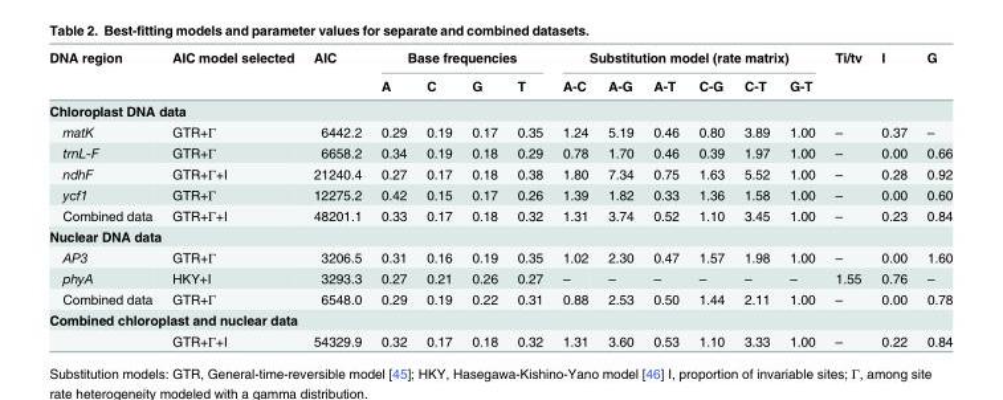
<table><thead><tr><td rowspan="2">DNA region</td><td rowspan="2">AIC model selected</td><td rowspan="2">AIC</td><td colspan="4">Base frequencies</td><td colspan="6">Substitution model (rate matrix)</td><td rowspan="2">Ti/tv</td><td rowspan="2">I</td><td rowspan="2">G</td></tr><tr><td>A</td><td>C</td><td>G</td><td>T</td><td>A-C</td><td>A-G</td><td>A-T</td><td>C-G</td><td>C-T</td><td>G-T</td></tr></thead><tbody><tr><td colspan="16">Chloroplast DNA data</td></tr><tr><td>matK</td><td>GTR+Γ</td><td>6442.2</td><td>0.29</td><td>0.19</td><td>0.17</td><td>0.35</td><td>1.24</td><td>5.19</td><td>0.46</td><td>0.80</td><td>3.89</td><td>1.00</td><td>–</td><td>0.37</td><td>–</td></tr><tr><td>trnL-F</td><td>GTR+Γ</td><td>6658.2</td><td>0.34</td><td>0.19</td><td>0.18</td><td>0.29</td><td>0.78</td><td>1.70</td><td>0.46</td><td>0.39</td><td>1.97</td><td>1.00</td><td>–</td><td>0.00</td><td>0.66</td></tr><tr><td>ndhF</td><td>GTR+Γ+I</td><td>21240.4</td><td>0.27</td><td>0.17</td><td>0.18</td><td>0.38</td><td>1.80</td><td>7.34</td><td>0.75</td><td>1.63</td><td>5.52</td><td>1.00</td><td>–</td><td>0.28</td><td>0.92</td></tr><tr><td>ycf1</td><td>GTR+Γ</td><td>12275.2</td><td>0.42</td><td>0.15</td><td>0.17</td><td>0.26</td><td>1.39</td><td>1.82</td><td>0.33</td><td>1.36</td><td>1.58</td><td>1.00</td><td>–</td><td>0.00</td><td>0.60</td></tr><tr><td>Combined data</td><td>GTR+Γ+I</td><td>48201.1</td><td>0.33</td><td>0.17</td><td>0.18</td><td>0.32</td><td>1.31</td><td>3.74</td><td>0.52</td><td>1.10</td><td>3.45</td><td>1.00</td><td>–</td><td>0.23</td><td>0.84</td></tr><tr><td colspan="16">Nuclear DNA data</td></tr><tr><td>AP3</td><td>GTR+Γ</td><td>3206.5</td><td>0.31</td><td>0.16</td><td>0.19</td><td>0.35</td><td>1.02</td><td>2.30</td><td>0.47</td><td>1.57</td><td>1.98</td><td>1.00</td><td>–</td><td>0.00</td><td>1.60</td></tr><tr><td>phyA</td><td>HKY+I</td><td>3293.3</td><td>0.27</td><td>0.21</td><td>0.26</td><td>0.27</td><td>–</td><td>–</td><td>–</td><td>–</td><td>–</td><td>–</td><td>1.55</td><td>0.76</td><td>–</td></tr><tr><td>Combined data</td><td>GTR+Γ</td><td>6548.0</td><td>0.29</td><td>0.19</td><td>0.22</td><td>0.31</td><td>0.88</td><td>2.53</td><td>0.50</td><td>1.44</td><td>2.11</td><td>1.00</td><td>–</td><td>0.00</td><td>0.78</td></tr><tr><td colspan="16">Combined chloroplast and nuclear data</td></tr><tr><td></td><td>GTR+Γ+I</td><td>54329.9</td><td>0.32</td><td>0.17</td><td>0.18</td><td>0.32</td><td>1.31</td><td>3.60</td><td>0.53</td><td>1.10</td><td>3.33</td><td>1.00</td><td>–</td><td>0.22</td><td>0.84</td></tr></tbody></table>